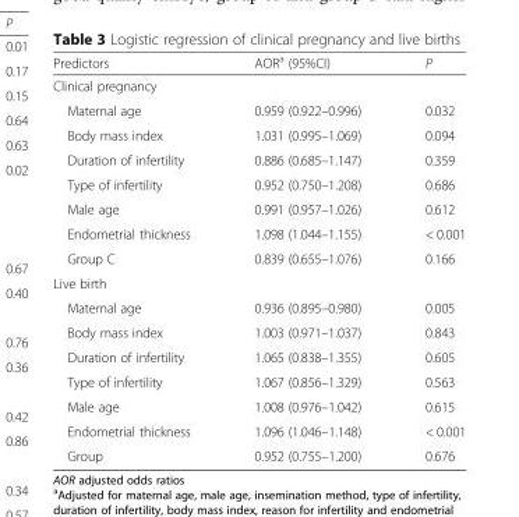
<table><thead><tr><td>Predictors</td><td>AOR<sup>a</sup> (95%CI)</td><td>P</td></tr></thead><tbody><tr><td colspan="3">Clinical pregnancy</td></tr><tr><td>Maternal age</td><td>0.959 (0.922–0.996)</td><td>0.032</td></tr><tr><td>Body mass index</td><td>1.031 (0.995–1.069)</td><td>0.094</td></tr><tr><td>Duration of infertility</td><td>0.886 (0.685–1.147)</td><td>0.359</td></tr><tr><td>Type of infertility</td><td>0.952 (0.750–1.208)</td><td>0.686</td></tr><tr><td>Male age</td><td>0.991 (0.957–1.026)</td><td>0.612</td></tr><tr><td>Endometrial thickness</td><td>1.098 (1.044–1.155)</td><td>&lt; 0.001</td></tr><tr><td>Group C</td><td>0.839 (0.655–1.076)</td><td>0.166</td></tr><tr><td colspan="3">Live birth</td></tr><tr><td>Maternal age</td><td>0.936 (0.895–0.980)</td><td>0.005</td></tr><tr><td>Body mass index</td><td>1.003 (0.971–1.037)</td><td>0.843</td></tr><tr><td>Duration of infertility</td><td>1.065 (0.838–1.355)</td><td>0.605</td></tr><tr><td>Type of infertility</td><td>1.067 (0.856–1.329)</td><td>0.563</td></tr><tr><td>Male age</td><td>1.008 (0.976–1.042)</td><td>0.615</td></tr><tr><td>Endometrial thickness</td><td>1.096 (1.046–1.148)</td><td>&lt; 0.001</td></tr><tr><td>Group</td><td>0.952 (0.755–1.200)</td><td>0.676</td></tr></tbody></table>